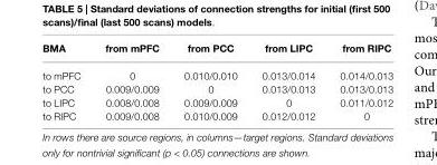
<table><thead><tr><td>BMA</td><td>from mPFC</td><td>from PCC</td><td>from LIPC</td><td>from RIPC</td></tr></thead><tbody><tr><td>to mPFC</td><td>0</td><td>0.010/0.010</td><td>0.013/0.014</td><td>0.014/0.013</td></tr><tr><td>to PCC</td><td>0.009/0.009</td><td>0</td><td>0.013/0.013</td><td>0.013/0.013</td></tr><tr><td>to LIPC</td><td>0.008/0.008</td><td>0.009/0.009</td><td>0</td><td>0.011/0.012</td></tr><tr><td>to RIPC</td><td>0.009/0.008</td><td>0.010/0.009</td><td>0.012/0.012</td><td>0</td></tr></tbody></table>